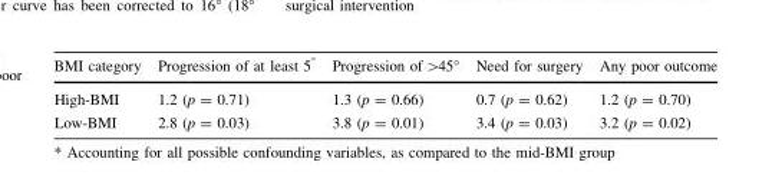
<table><thead><tr><td>BMI category</td><td>Progression of at least 5<sup>°</sup></td><td>Progression of &gt;45°</td><td>Need for surgery</td><td>Any poor outcome</td></tr></thead><tbody><tr><td>High-BMI</td><td>1.2 (p = 0.71)</td><td>1.3 (p = 0.66)</td><td>0.7 (p = 0.62)</td><td>1.2 (p = 0.70)</td></tr><tr><td>Low-BMI</td><td>2.8 (p = 0.03)</td><td>3.8 (p = 0.01)</td><td>3.4 (p = 0.03)</td><td>3.2 (p = 0.02)</td></tr></tbody></table>